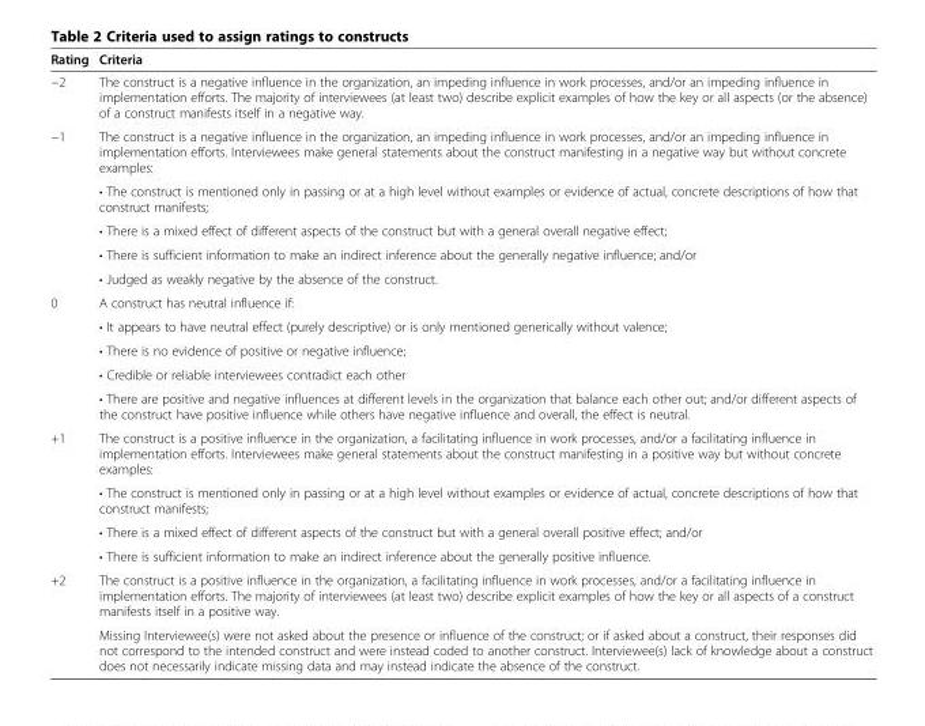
<table><thead><tr><td>Rating</td><td>Criteria</td></tr></thead><tbody><tr><td>−2</td><td>The construct is a negative influence in the organization, an impeding influence in work processes, and/or an impeding influence in implementation efforts. The majority of interviewees (at least two) describe explicit examples of how the key or all aspects (or the absence) of a construct manifests itself in a negative way.</td></tr><tr><td rowspan="5">−1</td><td>The construct is a negative influence in the organization, an impeding influence in work processes, and/or an impeding influence in implementation efforts. Interviewees make general statements about the construct manifesting in a negative way but without concrete examples:</td></tr><tr><td>• The construct is mentioned only in passing or at a high level without examples or evidence of actual, concrete descriptions of how that construct manifests;</td></tr><tr><td>• There is a mixed effect of different aspects of the construct but with a general overall negative effect;</td></tr><tr><td>• There is sufficient information to make an indirect inference about the generally negative influence; and/or</td></tr><tr><td>• Judged as weakly negative by the absence of the construct.</td></tr><tr><td rowspan="5">0</td><td>A construct has neutral influence if:</td></tr><tr><td>• It appears to have neutral effect (purely descriptive) or is only mentioned generically without valence;</td></tr><tr><td>• There is no evidence of positive or negative influence;</td></tr><tr><td>• Credible or reliable interviewees contradict each other</td></tr><tr><td>• There are positive and negative influences at different levels in the organization that balance each other out; and/or different aspects of the construct have positive influence while others have negative influence and overall, the effect is neutral.</td></tr><tr><td rowspan="4">+1</td><td>The construct is a positive influence in the organization, a facilitating influence in work processes, and/or a facilitating influence in implementation efforts. Interviewees make general statements about the construct manifesting in a positive way but without concrete examples:</td></tr><tr><td>• The construct is mentioned only in passing or at a high level without examples or evidence of actual, concrete descriptions of how that construct manifests;</td></tr><tr><td>• There is a mixed effect of different aspects of the construct but with a general overall positive effect; and/or</td></tr><tr><td>• There is sufficient information to make an indirect inference about the generally positive influence.</td></tr><tr><td rowspan="2">+2</td><td>The construct is a positive influence in the organization, a facilitating influence in work processes, and/or a facilitating influence in implementation efforts. The majority of interviewees (at least two) describe explicit examples of how the key or all aspects of a construct manifests itself in a positive way.</td></tr><tr><td>Missing Interviewee(s) were not asked about the presence or influence of the construct; or if asked about a construct, their responses did not correspond to the intended construct and were instead coded to another construct. Interviewee(s) lack of knowledge about a construct does not necessarily indicate missing data and may instead indicate the absence of the construct.</td></tr></tbody></table>